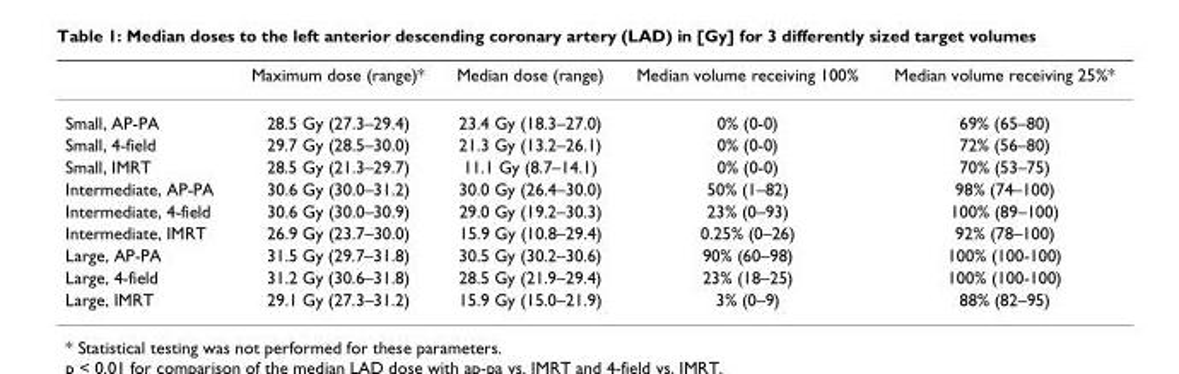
<table><thead><tr><td></td><td>Maximum dose (range)*</td><td>Median dose (range)</td><td>Median volume receiving 100%</td><td>Median volume receiving 25%*</td></tr></thead><tbody><tr><td>Small, AP-PA</td><td>28.5 Gy (27.3–29.4)</td><td>23.4 Gy (18.3–27.0)</td><td>0% (0-0)</td><td>69% (65–80)</td></tr><tr><td>Small, 4-field</td><td>29.7 Gy (28.5–30.0)</td><td>21.3 Gy (13.2–26.1)</td><td>0% (0-0)</td><td>72% (56–80)</td></tr><tr><td>Small, IMRT</td><td>28.5 Gy (21.3–29.7)</td><td>11.1 Gy (8.7–14.1)</td><td>0% (0-0)</td><td>70% (53–75)</td></tr><tr><td>Intermediate, AP-PA</td><td>30.6 Gy (30.0–31.2)</td><td>30.0 Gy (26.4–30.0)</td><td>50% (1–82)</td><td>98% (74–100)</td></tr><tr><td>Intermediate, 4-field</td><td>30.6 Gy (30.0–30.9)</td><td>29.0 Gy (19.2–30.3)</td><td>23% (0–93)</td><td>100% (89–100)</td></tr><tr><td>Intermediate, IMRT</td><td>26.9 Gy (23.7–30.0)</td><td>15.9 Gy (10.8–29.4)</td><td>0.25% (0–26)</td><td>92% (78–100)</td></tr><tr><td>Large, AP-PA</td><td>31.5 Gy (29.7–31.8)</td><td>30.5 Gy (30.2–30.6)</td><td>90% (60–98)</td><td>100% (100-100)</td></tr><tr><td>Large, 4-field</td><td>31.2 Gy (30.6–31.8)</td><td>28.5 Gy (21.9–29.4)</td><td>23% (18–25)</td><td>100% (100-100)</td></tr><tr><td>Large, IMRT</td><td>29.1 Gy (27.3–31.2)</td><td>15.9 Gy (15.0–21.9)</td><td>3% (0–9)</td><td>88% (82–95)</td></tr></tbody></table>